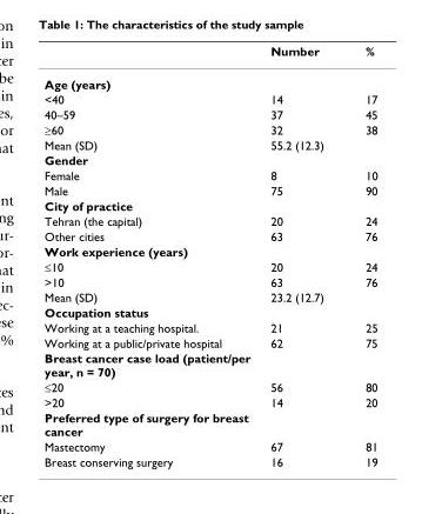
<table><thead><tr><td></td><td>Number</td><td>%</td></tr></thead><tbody><tr><td colspan="3">Age (years)</td></tr><tr><td>&lt;40</td><td>14</td><td>17</td></tr><tr><td>40–59</td><td>37</td><td>45</td></tr><tr><td>≥60</td><td>32</td><td>38</td></tr><tr><td>Mean (SD)</td><td>55.2 (12.3)</td><td></td></tr><tr><td colspan="3">Gender</td></tr><tr><td>Female</td><td>8</td><td>10</td></tr><tr><td>Male</td><td>75</td><td>90</td></tr><tr><td colspan="3">City of practice</td></tr><tr><td>Tehran (the capital)</td><td>20</td><td>24</td></tr><tr><td>Other cities</td><td>63</td><td>76</td></tr><tr><td colspan="3">Work experience (years)</td></tr><tr><td>≤10</td><td>20</td><td>24</td></tr><tr><td>&gt;10</td><td>63</td><td>76</td></tr><tr><td>Mean (SD)</td><td>23.2 (12.7)</td><td></td></tr><tr><td colspan="3">Occupation status</td></tr><tr><td>Working at a teaching hospital.</td><td>21</td><td>25</td></tr><tr><td>Working at a public/private hospital</td><td>62</td><td>75</td></tr><tr><td colspan="3">Breast cancer case load (patient/per year, n = 70)</td></tr><tr><td>≤20</td><td>56</td><td>80</td></tr><tr><td>&gt;20</td><td>14</td><td>20</td></tr><tr><td colspan="3">Preferred type of surgery for breast cancer</td></tr><tr><td>Mastectomy</td><td>67</td><td>81</td></tr><tr><td>Breast conserving surgery</td><td>16</td><td>19</td></tr></tbody></table>